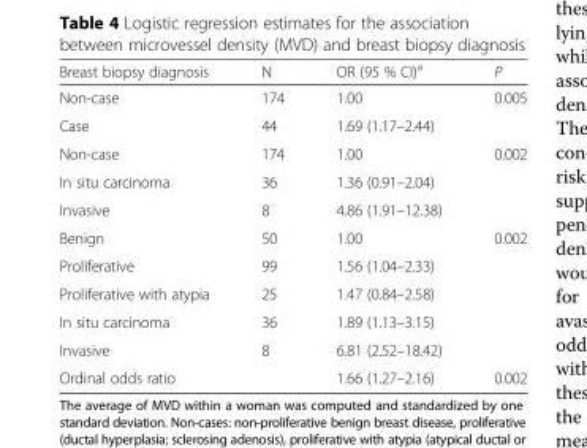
<table><thead><tr><td>Breast biopsy diagnosis</td><td>N</td><td>OR (95 % CI)<sup>a</sup></td><td>P</td></tr></thead><tbody><tr><td>Non-case</td><td>174</td><td>1.00</td><td>0.005</td></tr><tr><td>Case</td><td>44</td><td>1.69 (1.17–2.44)</td><td></td></tr><tr><td>Non-case</td><td>174</td><td>1.00</td><td>0.002</td></tr><tr><td>In situ carcinoma</td><td>36</td><td>1.36 (0.91–2.04)</td><td></td></tr><tr><td>Invasive</td><td>8</td><td>4.86 (1.91–12.38)</td><td></td></tr><tr><td>Benign</td><td>50</td><td>1.00</td><td>0.002</td></tr><tr><td>Proliferative</td><td>99</td><td>1.56 (1.04–2.33)</td><td></td></tr><tr><td>Proliferative with atypia</td><td>25</td><td>1.47 (0.84–2.58)</td><td></td></tr><tr><td>In situ carcinoma</td><td>36</td><td>1.89 (1.13–3.15)</td><td></td></tr><tr><td>Invasive</td><td>8</td><td>6.81 (2.52–18.42)</td><td></td></tr><tr><td>Ordinal odds ratio</td><td></td><td>1.66 (1.27–2.16)</td><td>0.002</td></tr></tbody></table>